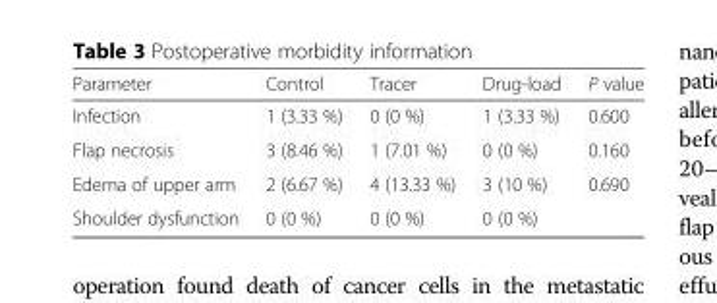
<table><thead><tr><td>Parameter</td><td>Control</td><td>Tracer</td><td>Drug-load</td><td>P value</td></tr></thead><tbody><tr><td>Infection</td><td>1 (3.33 %)</td><td>0 (0 %)</td><td>1 (3.33 %)</td><td>0.600</td></tr><tr><td>Flap necrosis</td><td>3 (8.46 %)</td><td>1 (7.01 %)</td><td>0 (0 %)</td><td>0.160</td></tr><tr><td>Edema of upper arm</td><td>2 (6.67 %)</td><td>4 (13.33 %)</td><td>3 (10 %)</td><td>0.690</td></tr><tr><td>Shoulder dysfunction</td><td>0 (0 %)</td><td>0 (0 %)</td><td>0 (0 %)</td><td></td></tr></tbody></table>